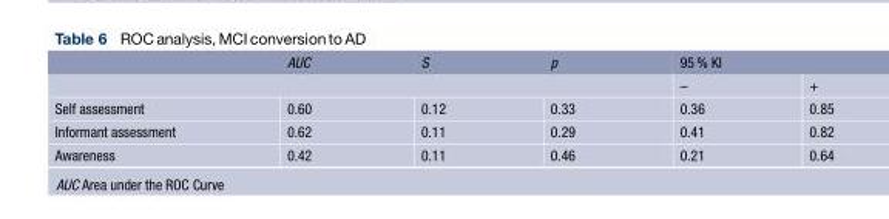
<table><thead><tr><td></td><td>AUC</td><td>S</td><td>p</td><td colspan="2">95 % KI</td></tr><tr><td colspan="4"></td><td>–</td><td>+</td></tr></thead><tbody><tr><td>Self assessment</td><td>0.60</td><td>0.12</td><td>0.33</td><td>0.36</td><td>0.85</td></tr><tr><td>Informant assessment</td><td>0.62</td><td>0.11</td><td>0.29</td><td>0.41</td><td>0.82</td></tr><tr><td>Awareness</td><td>0.42</td><td>0.11</td><td>0.46</td><td>0.21</td><td>0.64</td></tr></tbody></table>